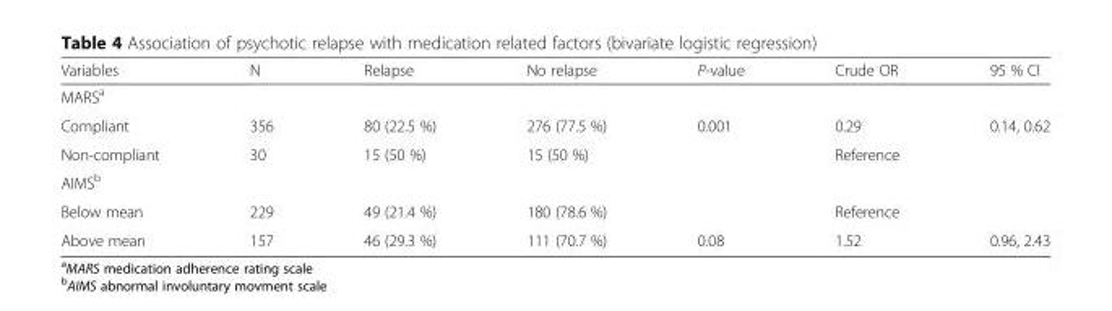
<table><thead><tr><td>Variables</td><td>N</td><td>Relapse</td><td>No relapse</td><td>P-value</td><td>Crude OR</td><td>95 % CI</td></tr></thead><tbody><tr><td colspan="7">MARS<sup>a</sup></td></tr><tr><td>Compliant</td><td>356</td><td>80 (22.5 %)</td><td>276 (77.5 %)</td><td>0.001</td><td>0.29</td><td>0.14, 0.62</td></tr><tr><td>Non-compliant</td><td>30</td><td>15 (50 %)</td><td>15 (50 %)</td><td></td><td>Reference</td><td></td></tr><tr><td colspan="7">AIMS<sup>b</sup></td></tr><tr><td>Below mean</td><td>229</td><td>49 (21.4 %)</td><td>180 (78.6 %)</td><td></td><td>Reference</td><td></td></tr><tr><td>Above mean</td><td>157</td><td>46 (29.3 %)</td><td>111 (70.7 %)</td><td>0.08</td><td>1.52</td><td>0.96, 2.43</td></tr></tbody></table>